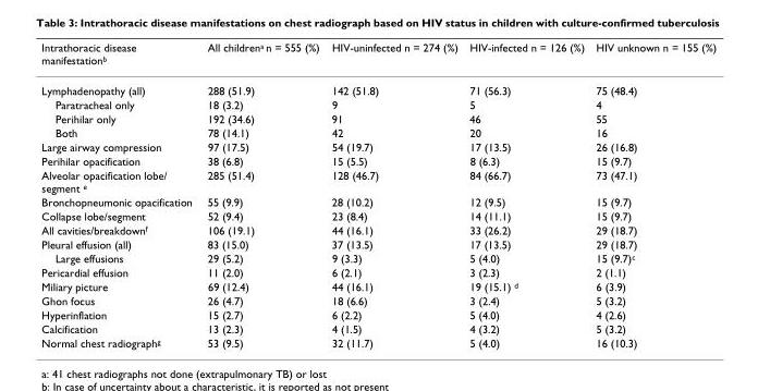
<table><thead><tr><td>Intrathoracic disease manifestation<sup>b</sup></td><td>All children<sup>a</sup> n = 555 (%)</td><td>HIV-uninfected n = 274 (%)</td><td>HIV-infected n = 126 (%)</td><td>HIV unknown n = 155 (%)</td></tr></thead><tbody><tr><td>Lymphadenopathy (all)</td><td>288 (51.9)</td><td>142 (51.8)</td><td>71 (56.3)</td><td>75 (48.4)</td></tr><tr><td>Paratracheal only</td><td>18 (3.2)</td><td>9</td><td>5</td><td>4</td></tr><tr><td>Perihilar only</td><td>192 (34.6)</td><td>91</td><td>46</td><td>55</td></tr><tr><td>Both</td><td>78 (14.1)</td><td>42</td><td>20</td><td>16</td></tr><tr><td>Large airway compression</td><td>97 (17.5)</td><td>54 (19.7)</td><td>17 (13.5)</td><td>26 (16.8)</td></tr><tr><td>Perihilar opacification</td><td>38 (6.8)</td><td>15 (5.5)</td><td>8 (6.3)</td><td>15 (9.7)</td></tr><tr><td>Alveolar opacification lobe/ segment <sup>e</sup></td><td>285 (51.4)</td><td>128 (46.7)</td><td>84 (66.7)</td><td>73 (47.1)</td></tr><tr><td>Bronchopneumonic opacification</td><td>55 (9.9)</td><td>28 (10.2)</td><td>12 (9.5)</td><td>15 (9.7)</td></tr><tr><td>Collapse lobe/segment</td><td>52 (9.4)</td><td>23 (8.4)</td><td>14 (11.1)</td><td>15 (9.7)</td></tr><tr><td>All cavities/breakdown<sup>f</sup></td><td>106 (19.1)</td><td>44 (16.1)</td><td>33 (26.2)</td><td>29 (18.7)</td></tr><tr><td>Pleural effusion (all)</td><td>83 (15.0)</td><td>37 (13.5)</td><td>17 (13.5)</td><td>29 (18.7)</td></tr><tr><td>Large effusions</td><td>29 (5.2)</td><td>9 (3.3)</td><td>5 (4.0)</td><td>15 (9.7)<sup>c</sup></td></tr><tr><td>Pericardial effusion</td><td>11 (2.0)</td><td>6 (2.1)</td><td>3 (2.3)</td><td>2 (1.1)</td></tr><tr><td>Miliary picture</td><td>69 (12.4)</td><td>44 (16.1)</td><td>19 (15.1) <sup>d</sup></td><td>6 (3.9)</td></tr><tr><td>Ghon focus</td><td>26 (4.7)</td><td>18 (6.6)</td><td>3 (2.4)</td><td>5 (3.2)</td></tr><tr><td>Hyperinflation</td><td>15 (2.7)</td><td>6 (2.2)</td><td>5 (4.0)</td><td>4 (2.6)</td></tr><tr><td>Calcification</td><td>13 (2.3)</td><td>4 (1.5)</td><td>4 (3.2)</td><td>5 (3.2)</td></tr><tr><td>Normal chest radiograph<sup>g</sup></td><td>53 (9.5)</td><td>32 (11.7)</td><td>5 (4.0)</td><td>16 (10.3)</td></tr></tbody></table>